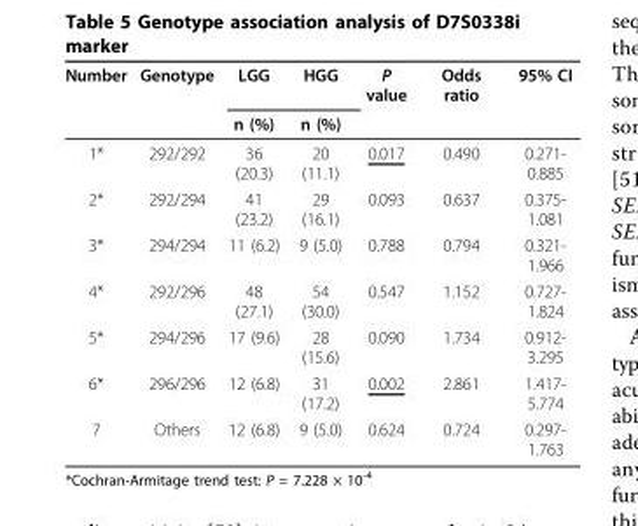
<table><thead><tr><td rowspan="2">Number</td><td rowspan="2">Genotype</td><td rowspan="2">LGG n (%)</td><td rowspan="2">HGG n (%)</td><td rowspan="2">P value</td><td rowspan="2">Odds ratio</td><td rowspan="2">95% CI</td></tr><tr></tr></thead><tbody><tr><td>1*</td><td>292/292</td><td>36 (20.3)</td><td>20 (11.1)</td><td>0.017</td><td>0.490</td><td>0.271- 0.885</td></tr><tr><td>2*</td><td>292/294</td><td>41 (23.2)</td><td>29 (16.1)</td><td>0.093</td><td>0.637</td><td>0.375- 1.081</td></tr><tr><td>3*</td><td>294/294</td><td>11 (6.2)</td><td>9 (5.0)</td><td>0.788</td><td>0.794</td><td>0.321- 1.966</td></tr><tr><td>4*</td><td>292/296</td><td>48 (27.1)</td><td>54 (30.0)</td><td>0.547</td><td>1.152</td><td>0.727- 1.824</td></tr><tr><td>5*</td><td>294/296</td><td>17 (9.6)</td><td>28 (15.6)</td><td>0.090</td><td>1.734</td><td>0.912- 3.295</td></tr><tr><td>6*</td><td>296/296</td><td>12 (6.8)</td><td>31 (17.2)</td><td>0.002</td><td>2.861</td><td>1.417- 5.774</td></tr><tr><td>7</td><td>Others</td><td>12 (6.8)</td><td>9 (5.0)</td><td>0.624</td><td>0.724</td><td>0.297- 1.763</td></tr></tbody></table>